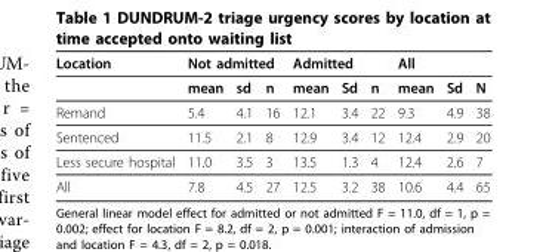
<table><thead><tr><td rowspan="2">Location</td><td colspan="3">Not admitted</td><td colspan="3">Admitted</td><td colspan="3">All</td></tr><tr><td>mean</td><td>sd</td><td>n</td><td>mean</td><td>Sd</td><td>n</td><td>mean</td><td>Sd</td><td>N</td></tr></thead><tbody><tr><td>Remand</td><td>5.4</td><td>4.1</td><td>16</td><td>12.1</td><td>3.4</td><td>22</td><td>9.3</td><td>4.9</td><td>38</td></tr><tr><td>Sentenced</td><td>11.5</td><td>2.1</td><td>8</td><td>12.9</td><td>3.4</td><td>12</td><td>12.4</td><td>2.9</td><td>20</td></tr><tr><td>Less secure hospital</td><td>11.0</td><td>3.5</td><td>3</td><td>13.5</td><td>1.3</td><td>4</td><td>12.4</td><td>2.6</td><td>7</td></tr><tr><td>All</td><td>7.8</td><td>4.5</td><td>27</td><td>12.5</td><td>3.2</td><td>38</td><td>10.6</td><td>4.4</td><td>65</td></tr></tbody></table>